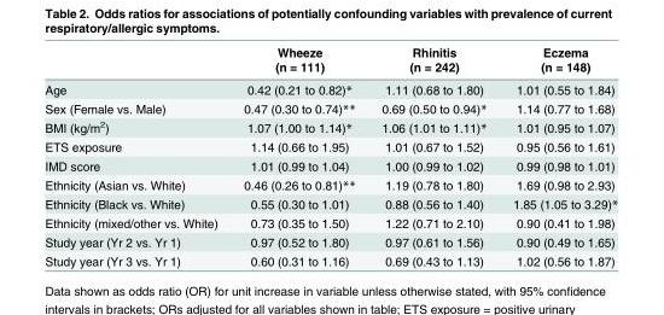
<table><thead><tr><td rowspan="2"></td><td rowspan="2">Wheeze (n = 111)</td><td rowspan="2">Rhinitis (n = 242)</td><td rowspan="2">Eczema (n = 148)</td></tr><tr></tr></thead><tbody><tr><td>Age</td><td>0.42 (0.21 to 0.82)*</td><td>1.11 (0.68 to 1.80)</td><td>1.01 (0.55 to 1.84)</td></tr><tr><td>Sex (Female vs. Male)</td><td>0.47 (0.30 to 0.74)**</td><td>0.69 (0.50 to 0.94)*</td><td>1.14 (0.77 to 1.68)</td></tr><tr><td>BMI (kg/m<sup>2</sup>)</td><td>1.07 (1.00 to 1.14)*</td><td>1.06 (1.01 to 1.11)*</td><td>1.01 (0.95 to 1.07)</td></tr><tr><td>ETS exposure</td><td>1.14 (0.66 to 1.95)</td><td>1.01 (0.67 to 1.52)</td><td>0.95 (0.56 to 1.61)</td></tr><tr><td>IMD score</td><td>1.01 (0.99 to 1.04)</td><td>1.00 (0.99 to 1.02)</td><td>0.99 (0.98 to 1.01)</td></tr><tr><td>Ethnicity (Asian vs. White)</td><td>0.46 (0.26 to 0.81)**</td><td>1.19 (0.78 to 1.80)</td><td>1.69 (0.98 to 2.93)</td></tr><tr><td>Ethnicity (Black vs. White)</td><td>0.55 (0.30 to 1.01)</td><td>0.88 (0.56 to 1.40)</td><td>1.85 (1.05 to 3.29)*</td></tr><tr><td>Ethnicity (mixed/other vs. White)</td><td>0.73 (0.35 to 1.50)</td><td>1.22 (0.71 to 2.10)</td><td>0.90 (0.41 to 1.98)</td></tr><tr><td>Study year (Yr 2 vs. Yr 1)</td><td>0.97 (0.52 to 1.80)</td><td>0.97 (0.61 to 1.56)</td><td>0.90 (0.49 to 1.65)</td></tr><tr><td>Study year (Yr 3 vs. Yr 1)</td><td>0.60 (0.31 to 1.16)</td><td>0.69 (0.43 to 1.13)</td><td>1.02 (0.56 to 1.87)</td></tr></tbody></table>